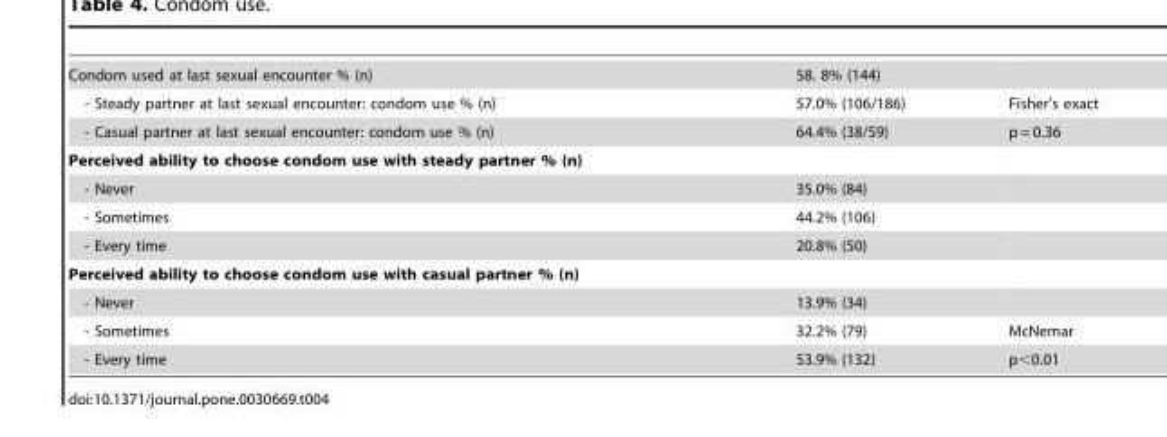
<table><tbody><tr><td>Condom used at last sexual encounter % (n)</td><td>58. 8% (144)</td><td></td></tr><tr><td>- Steady partner at last sexual encounter: condom use % (n)</td><td>57.0% (106/186)</td><td>Fisher’s exact</td></tr><tr><td>- Casual partner at last sexual encounter: condom use % (n)</td><td>64.4% (38/59)</td><td>p = 0.36</td></tr><tr><td colspan="3">Perceived ability to choose condom use with steady partner % (n)</td></tr><tr><td>- Never</td><td>35.0% (84)</td><td></td></tr><tr><td>- Sometimes</td><td>44.2% (106)</td><td></td></tr><tr><td>- Every time</td><td>20.8% (50)</td><td></td></tr><tr><td colspan="3">Perceived ability to choose condom use with casual partner % (n)</td></tr><tr><td>- Never</td><td>13.9% (34)</td><td></td></tr><tr><td>- Sometimes</td><td>32.2% (79)</td><td>McNemar</td></tr><tr><td>- Every time</td><td>53.9% (132)</td><td>p&lt;0.01</td></tr></tbody></table>